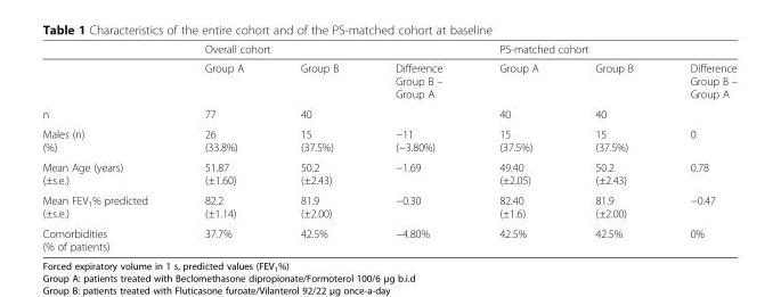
<table><thead><tr><td rowspan="2"></td><td colspan="3">Overall cohort</td><td colspan="3">PS-matched cohort</td></tr><tr><td>Group A</td><td>Group B</td><td>Difference Group B – Group A</td><td>Group A</td><td>Group B</td><td>Difference Group B – Group A</td></tr></thead><tbody><tr><td>n</td><td>77</td><td>40</td><td></td><td>40</td><td>40</td><td></td></tr><tr><td>Males (n) (%)</td><td>26 (33.8%)</td><td>15 (37.5%)</td><td>−11 (−3.80%)</td><td>15 (37.5%)</td><td>15 (37.5%)</td><td>0</td></tr><tr><td>Mean Age (years) (±s.e.)</td><td>51.87 (±1.60)</td><td>50.2 (±2.43)</td><td>−1.69</td><td>49.40 (±2.05)</td><td>50.2 (±2.43)</td><td>0.78</td></tr><tr><td>Mean FEV<sub>1</sub>% predicted (±s.e.)</td><td>82.2 (±1.14)</td><td>81.9 (±2.00)</td><td>−0.30</td><td>82.40 (±1.6)</td><td>81.9 (±2.00)</td><td>−0.47</td></tr><tr><td>Comorbidities (% of patients)</td><td>37.7%</td><td>42.5%</td><td>−4.80%</td><td>42.5%</td><td>42.5%</td><td>0%</td></tr></tbody></table>